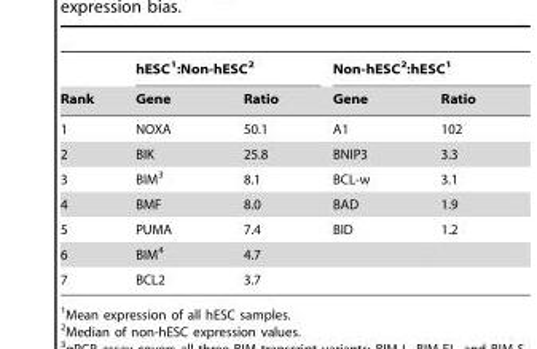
<table><thead><tr><td rowspan="2">Rank</td><td colspan="2">hESC<sup>1</sup>:Non-hESC<sup>2</sup></td><td colspan="2">Non-hESC<sup>2</sup>:hESC<sup>1</sup></td></tr><tr><td>Gene</td><td>Ratio</td><td>Gene</td><td>Ratio</td></tr></thead><tbody><tr><td>1</td><td>NOXA</td><td>50.1</td><td>A1</td><td>102</td></tr><tr><td>2</td><td>BIK</td><td>25.8</td><td>BNIP3</td><td>3.3</td></tr><tr><td>3</td><td>BIM<sup>3</sup></td><td>8.1</td><td>BCL-w</td><td>3.1</td></tr><tr><td>4</td><td>BMF</td><td>8.0</td><td>BAD</td><td>1.9</td></tr><tr><td>5</td><td>PUMA</td><td>7.4</td><td>BID</td><td>1.2</td></tr><tr><td>6</td><td>BIM<sup>4</sup></td><td>4.7</td><td></td><td></td></tr><tr><td>7</td><td>BCL2</td><td>3.7</td><td></td><td></td></tr></tbody></table>